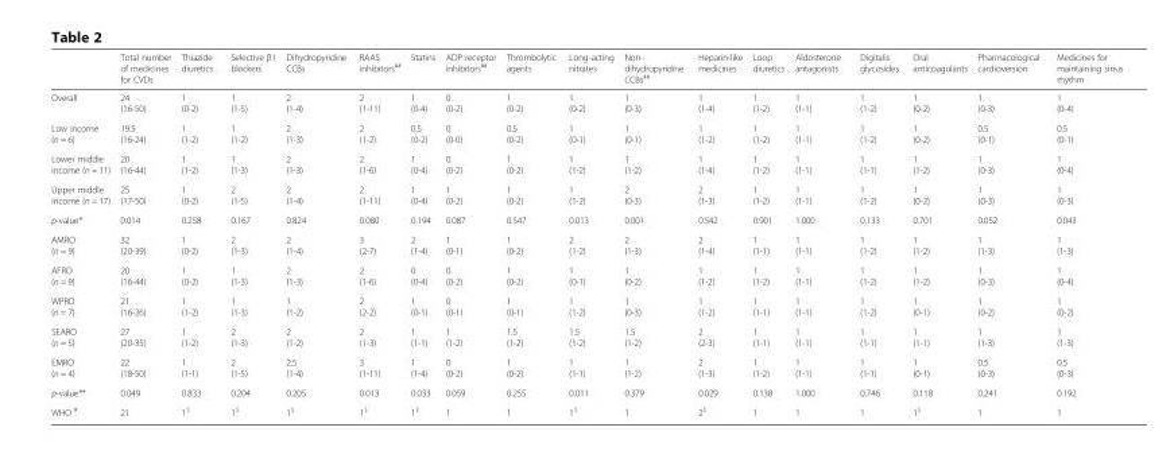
<table><thead><tr><td></td><td>Total number of medicines for CVDs</td><td>Thiazide diuretics</td><td>Selective β1 blockers</td><td>Dihydropyridine CCBs</td><td>RAAS inhibitors<sup>##</sup></td><td>Statins</td><td>ADP receptor inhibitors<sup>##</sup></td><td>Thrombolytic agents</td><td>Long-acting nitrates</td><td>Non- dihydropyridine CCBs<sup>##</sup></td><td>Heparin-like medicines</td><td>Loop diuretics</td><td>Aldosterone antagonists</td><td>Digitalis glycosides</td><td>Oral anticoagulants</td><td>Pharmacological cardioversion</td><td>Medicines for maintaining sinus rhythm</td></tr></thead><tbody><tr><td>Overall</td><td>24 (16-50)</td><td>1 (0-2)</td><td>1 (1-5)</td><td>2 (1-4)</td><td>2 (1-11)</td><td>1 (0-4)</td><td>0 (0-2)</td><td>1 (0-2)</td><td>1 (0-2)</td><td>1 (0-3)</td><td>1 (1-4)</td><td>1 (1-2)</td><td>1 (1-1)</td><td>1 (1-2)</td><td>1 (0-2)</td><td>1 (0-3)</td><td>1 (0-4)</td></tr><tr><td>Low income (n = 6)</td><td>19.5 (16-24)</td><td>1 (1-2)</td><td>1 (1-2)</td><td>2 (1-3)</td><td>2 (1-2)</td><td>0.5 (0-2)</td><td>0 (0-0)</td><td>0.5 (0-2)</td><td>1 (0-1)</td><td>1 (0-1)</td><td>1 (1-2)</td><td>1 (1-2)</td><td>1 (1-1)</td><td>1 (1-2)</td><td>1 (0-2)</td><td>0.5 (0-1)</td><td>0.5 (0-1)</td></tr><tr><td>Lower middle income (n = 11)</td><td>20 (16-44)</td><td>1 (1-2)</td><td>1 (1-3)</td><td>2 (1-3)</td><td>2 (1-6)</td><td>1 (0-4)</td><td>0 (0-2)</td><td>1 (0-2)</td><td>1 (1-2)</td><td>1 (1-2)</td><td>1 (1-4)</td><td>1 (1-2)</td><td>1 (1-1)</td><td>1 (1-1)</td><td>1 (1-2)</td><td>1 (0-3)</td><td>1 (0-4)</td></tr><tr><td>Upper middle income (n = 17)</td><td>25 (17-50)</td><td>1 (0-2)</td><td>2 (1-5)</td><td>2 (1-4)</td><td>2 (1-11)</td><td>1 (0-4)</td><td>1 (0-2)</td><td>1 (0-2)</td><td>1 (1-2)</td><td>2 (0-3)</td><td>2 (1-3)</td><td>1 (1-2)</td><td>1 (1-1)</td><td>1 (1-2)</td><td>1 (0-2)</td><td>1 (0-3)</td><td>1 (0-3)</td></tr><tr><td>p-value*</td><td>0.014</td><td>0.258</td><td>0.167</td><td>0.824</td><td>0.080</td><td>0.194</td><td>0.087</td><td>0.547</td><td>0.013</td><td>0.001</td><td>0.542</td><td>0.901</td><td>1.000</td><td>0.133</td><td>0.701</td><td>0.052</td><td>0.043</td></tr><tr><td>AMRO (n = 9)</td><td>32 (20-39)</td><td>1 (0-2)</td><td>2 (1-3)</td><td>2 (1-4)</td><td>3 (2-7)</td><td>2 (1-4)</td><td>1 (0-1)</td><td>1 (0-2)</td><td>2 (1-2)</td><td>2 (1-3)</td><td>2 (1-4)</td><td>1 (1-1)</td><td>1 (1-1)</td><td>1 (1-2)</td><td>1 (1-2)</td><td>1 (1-3)</td><td>1 (1-3)</td></tr><tr><td>AFRO (n = 9)</td><td>20 (16-44)</td><td>1 (0-2)</td><td>1 (1-3)</td><td>2 (1-3)</td><td>2 (1-6)</td><td>0 (0-4)</td><td>0 (0-2)</td><td>1 (0-2)</td><td>1 (0-1)</td><td>1 (0-2)</td><td>1 (1-2)</td><td>1 (1-2)</td><td>1 (1-1)</td><td>1 (1-2)</td><td>1 (1-2)</td><td>1 (0-3)</td><td>1 (0-4)</td></tr><tr><td>WPRO (n = 7)</td><td>21 (16-26)</td><td>1 (1-2)</td><td>1 (1-3)</td><td>1 (1-2)</td><td>2 (2-2)</td><td>1 (0-1)</td><td>0 (0-1)</td><td>1 (0-1)</td><td>1 (1-2)</td><td>1 (0-3)</td><td>1 (1-2)</td><td>1 (1-1)</td><td>1 (1-1)</td><td>1 (1-2)</td><td>1 (0-1)</td><td>1 (0-2)</td><td>1 (0-2)</td></tr><tr><td>SEARO (n = 5)</td><td>27 (20-35)</td><td>1 (1-2)</td><td>2 (1-3)</td><td>2 (1-2)</td><td>2 (1-3)</td><td>1 (1-1)</td><td>1 (1-2)</td><td>1.5 (1-2)</td><td>1.5 (1-2)</td><td>1.5 (1-2)</td><td>2 (2-3)</td><td>1 (1-1)</td><td>1 (1-1)</td><td>1 (1-1)</td><td>1 (1-1)</td><td>1 (1-3)</td><td>1 (1-3)</td></tr><tr><td>EMRO (n = 4)</td><td>22 (18-50)</td><td>1 (1-1)</td><td>2 (1-5)</td><td>2.5 (1-4)</td><td>3 (1-11)</td><td>1 (1-4)</td><td>0 (0-2)</td><td>1 (0-2)</td><td>1 (1-1)</td><td>1 (1-2)</td><td>2 (1-3)</td><td>1 (1-2)</td><td>1 (1-1)</td><td>1 (1-1)</td><td>1 (0-1)</td><td>0.5 (0-3)</td><td>0.5 (0-3)</td></tr><tr><td>p-value**</td><td>0.049</td><td>0.833</td><td>0.204</td><td>0.205</td><td>0.013</td><td>0.033</td><td>0.059</td><td>0.255</td><td>0.011</td><td>0.379</td><td>0.029</td><td>0.138</td><td>1.000</td><td>0.746</td><td>0.118</td><td>0.241</td><td>0.192</td></tr><tr><td>WHO <sup>#</sup></td><td>21</td><td>1<sup>$</sup></td><td>1<sup>$</sup></td><td>1<sup>$</sup></td><td>1<sup>$</sup></td><td>1<sup>$</sup></td><td>1</td><td>1</td><td>1<sup>$</sup></td><td>1</td><td>2<sup>$</sup></td><td>1</td><td>1</td><td>1</td><td>1<sup>$</sup></td><td>1</td><td>1</td></tr></tbody></table>